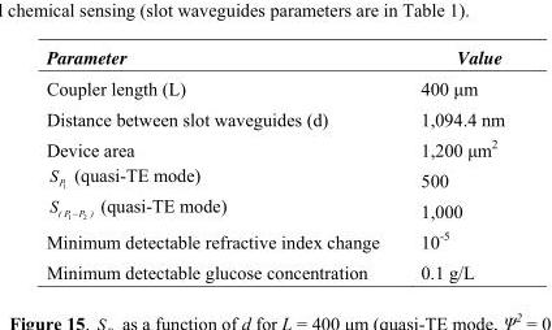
<table><thead><tr><td>Parameter</td><td>Value</td></tr></thead><tbody><tr><td>Coupler length (L)</td><td>400 μm</td></tr><tr><td>Distance between slot waveguides (d)</td><td>1,094.4 nm</td></tr><tr><td>Device area</td><td>1,200 μm<sup>2</sup></td></tr><tr><td>1P S (quasi-TE mode)</td><td>500</td></tr><tr><td>1 2 ( P P ) S  (quasi-TE mode)</td><td>1,000</td></tr><tr><td>Minimum detectable refractive index change</td><td>10<sup>-5</sup></td></tr><tr><td>Minimum detectable glucose concentration</td><td>0.1 g/L</td></tr></tbody></table>